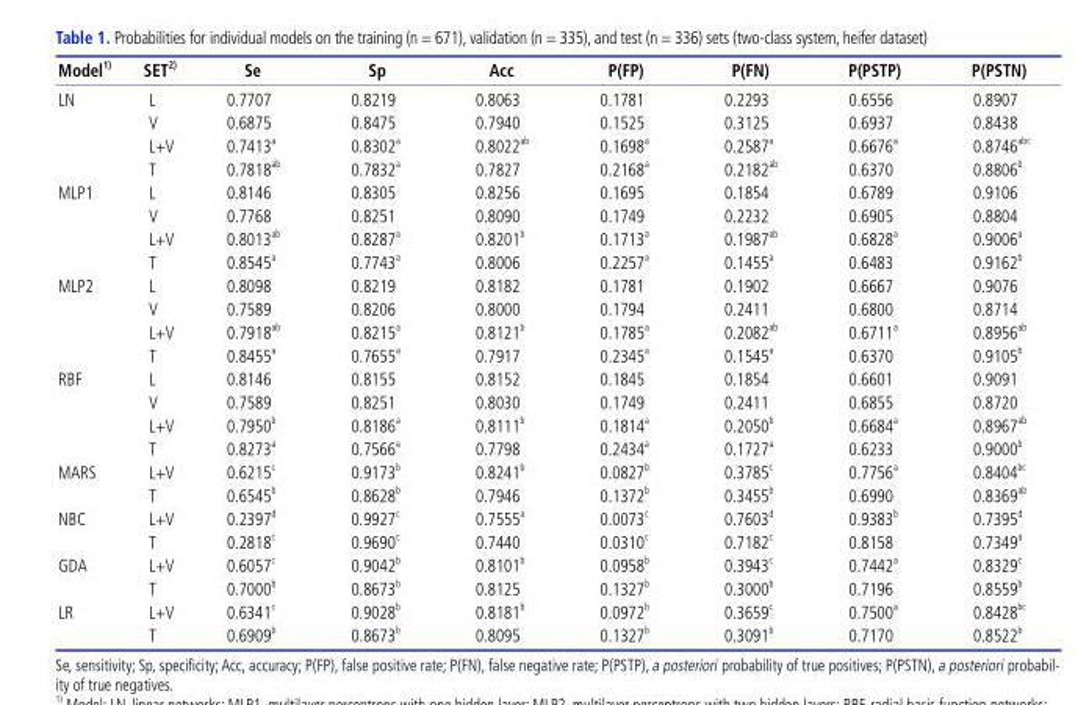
<table><thead><tr><td>Model 1)</td><td>SET 2)</td><td>Se</td><td>Sp</td><td>Acc</td><td>P(FP)</td><td>P(FN)</td><td>P(PSTP)</td><td>P(PSTN)</td></tr></thead><tbody><tr><td rowspan="4">LN</td><td>L</td><td>0.7707</td><td>0.8219</td><td>0.8063</td><td>0.1781</td><td>0.2293</td><td>0.6556</td><td>0.8907</td></tr><tr><td>V</td><td>0.6875</td><td>0.8475</td><td>0.7940</td><td>0.1525</td><td>0.3125</td><td>0.6937</td><td>0.8438</td></tr><tr><td>L+V</td><td>0.7413 <sup>a</sup></td><td>0.8302 <sup>a</sup></td><td>0.8022 <sup>ab</sup></td><td>0.1698 <sup>a</sup></td><td>0.2587 <sup>a</sup></td><td>0.6676 <sup>a</sup></td><td>0.8746 abc</td></tr><tr><td>T</td><td>0.7818 <sup>ab</sup></td><td>0.7832 <sup>a</sup></td><td>0.7827</td><td>0.2168 <sup>a</sup></td><td>0.2182 <sup>ab</sup></td><td>0.6370</td><td>0.8806 <sup>b</sup></td></tr><tr><td rowspan="4">MLP1</td><td>L</td><td>0.8146</td><td>0.8305</td><td>0.8256</td><td>0.1695</td><td>0.1854</td><td>0.6789</td><td>0.9106</td></tr><tr><td>V</td><td>0.7768</td><td>0.8251</td><td>0.8090</td><td>0.1749</td><td>0.2232</td><td>0.6905</td><td>0.8804</td></tr><tr><td>L+V</td><td>0.8013 <sup>ab</sup></td><td>0.8287 <sup>a</sup></td><td>0.8201 <sup>b</sup></td><td>0.1713 <sup>a</sup></td><td>0.1987 <sup>ab</sup></td><td>0.6828 <sup>a</sup></td><td>0.9006 <sup>a</sup></td></tr><tr><td>T</td><td>0.8545 <sup>a</sup></td><td>0.7743 <sup>a</sup></td><td>0.8006</td><td>0.2257 <sup>a</sup></td><td>0.1455 <sup>a</sup></td><td>0.6483</td><td>0.9162 <sup>b</sup></td></tr><tr><td rowspan="4">MLP2</td><td>L</td><td>0.8098</td><td>0.8219</td><td>0.8182</td><td>0.1781</td><td>0.1902</td><td>0.6667</td><td>0.9076</td></tr><tr><td>V</td><td>0.7589</td><td>0.8206</td><td>0.8000</td><td>0.1794</td><td>0.2411</td><td>0.6800</td><td>0.8714</td></tr><tr><td>L+V</td><td>0.7918 <sup>ab</sup></td><td>0.8215 <sup>a</sup></td><td>0.8121 <sup>b</sup></td><td>0.1785 <sup>a</sup></td><td>0.2082 <sup>ab</sup></td><td>0.6711 <sup>a</sup></td><td>0.8956 <sup>ab</sup></td></tr><tr><td>T</td><td>0.8455 <sup>a</sup></td><td>0.7655 <sup>a</sup></td><td>0.7917</td><td>0.2345 <sup>a</sup></td><td>0.1545 <sup>a</sup></td><td>0.6370</td><td>0.9105 <sup>b</sup></td></tr><tr><td rowspan="4">RBF</td><td>L</td><td>0.8146</td><td>0.8155</td><td>0.8152</td><td>0.1845</td><td>0.1854</td><td>0.6601</td><td>0.9091</td></tr><tr><td>V</td><td>0.7589</td><td>0.8251</td><td>0.8030</td><td>0.1749</td><td>0.2411</td><td>0.6855</td><td>0.8720</td></tr><tr><td>L+V</td><td>0.7950 <sup>b</sup></td><td>0.8186 <sup>a</sup></td><td>0.8111 <sup>b</sup></td><td>0.1814 <sup>a</sup></td><td>0.2050 <sup>b</sup></td><td>0.6684 <sup>a</sup></td><td>0.8967 <sup>ab</sup></td></tr><tr><td>T</td><td>0.8273 <sup>a</sup></td><td>0.7566 <sup>a</sup></td><td>0.7798</td><td>0.2434 <sup>a</sup></td><td>0.1727 <sup>a</sup></td><td>0.6233</td><td>0.9000 <sup>b</sup></td></tr><tr><td rowspan="2">MARS</td><td>L+V</td><td>0.6215 <sup>c</sup></td><td>0.9173 <sup>b</sup></td><td>0.8241 <sup>b</sup></td><td>0.0827 <sup>b</sup></td><td>0.3785 <sup>c</sup></td><td>0.7756 <sup>a</sup></td><td>0.8404 <sup>bc</sup></td></tr><tr><td>T</td><td>0.6545 <sup>b</sup></td><td>0.8628 <sup>b</sup></td><td>0.7946</td><td>0.1372 <sup>b</sup></td><td>0.3455 <sup>b</sup></td><td>0.6990</td><td>0.8369 <sup>ab</sup></td></tr><tr><td rowspan="2">NBC</td><td>L+V</td><td>0.2397 <sup>d</sup></td><td>0.9927 <sup>c</sup></td><td>0.7555 <sup>a</sup></td><td>0.0073 <sup>c</sup></td><td>0.7603 <sup>d</sup></td><td>0.9383 <sup>b</sup></td><td>0.7395 <sup>d</sup></td></tr><tr><td>T</td><td>0.2818 <sup>c</sup></td><td>0.9690 <sup>c</sup></td><td>0.7440</td><td>0.0310 <sup>c</sup></td><td>0.7182 <sup>c</sup></td><td>0.8158</td><td>0.7349 <sup>a</sup></td></tr><tr><td rowspan="2">GDA</td><td>L+V</td><td>0.6057 <sup>c</sup></td><td>0.9042 <sup>b</sup></td><td>0.8101 <sup>b</sup></td><td>0.0958 <sup>b</sup></td><td>0.3943 <sup>c</sup></td><td>0.7442 <sup>a</sup></td><td>0.8329 <sup>c</sup></td></tr><tr><td>T</td><td>0.7000 <sup>b</sup></td><td>0.8673 <sup>b</sup></td><td>0.8125</td><td>0.1327 <sup>b</sup></td><td>0.3000 <sup>b</sup></td><td>0.7196</td><td>0.8559 <sup>b</sup></td></tr><tr><td rowspan="2">LR</td><td>L+V</td><td>0.6341 <sup>c</sup></td><td>0.9028 <sup>b</sup></td><td>0.8181 <sup>b</sup></td><td>0.0972 <sup>b</sup></td><td>0.3659 <sup>c</sup></td><td>0.7500 <sup>a</sup></td><td>0.8428 <sup>bc</sup></td></tr><tr><td>T</td><td>0.6909 <sup>b</sup></td><td>0.8673 <sup>b</sup></td><td>0.8095</td><td>0.1327 <sup>b</sup></td><td>0.3091 <sup>b</sup></td><td>0.7170</td><td>0.8522 <sup>b</sup></td></tr></tbody></table>